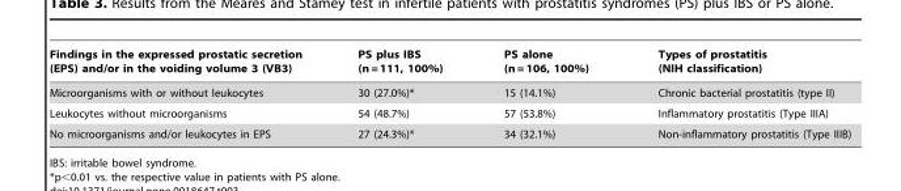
<table><thead><tr><td>Findings in the expressed prostatic secretion (EPS) and/or in the voiding volume 3 (VB3)</td><td>PS plus IBS (n = 111, 100%)</td><td>PS alone (n = 106, 100%)</td><td>Types of prostatitis (NIH classification)</td></tr></thead><tbody><tr><td>Microorganisms with or without leukocytes</td><td>30 (27.0%)*</td><td>15 (14.1%)</td><td>Chronic bacterial prostatitis (type II)</td></tr><tr><td>Leukocytes without microorganisms</td><td>54 (48.7%)</td><td>57 (53.8%)</td><td>Inflammatory prostatitis (Type IIIA)</td></tr><tr><td>No microorganisms and/or leukocytes in EPS</td><td>27 (24.3%)*</td><td>34 (32.1%)</td><td>Non-inflammatory prostatitis (Type IIIB)</td></tr></tbody></table>